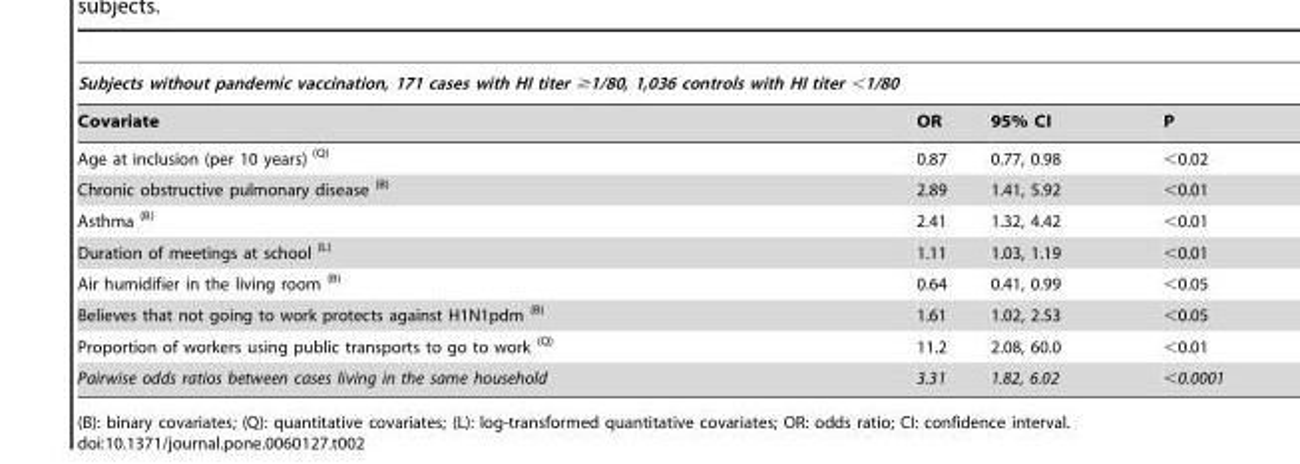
<table><thead><tr><td colspan="4">Subjects without pandemic vaccination, 171 cases with HI titer ≥1/80, 1,036 controls with HI titer &lt;1/80</td></tr><tr><td>Covariate</td><td>OR</td><td>95% CI</td><td>P</td></tr></thead><tbody><tr><td>Age at inclusion (per 10 years) <sup>(Q)</sup></td><td>0.87</td><td>0.77, 0.98</td><td>&lt;0.02</td></tr><tr><td>Chronic obstructive pulmonary disease <sup>(B)</sup></td><td>2.89</td><td>1.41, 5.92</td><td>&lt;0.01</td></tr><tr><td>Asthma <sup>(B)</sup></td><td>2.41</td><td>1.32, 4.42</td><td>&lt;0.01</td></tr><tr><td>Duration of meetings at school <sup>(L)</sup></td><td>1.11</td><td>1.03, 1.19</td><td>&lt;0.01</td></tr><tr><td>Air humidifier in the living room <sup>(B)</sup></td><td>0.64</td><td>0.41, 0.99</td><td>&lt;0.05</td></tr><tr><td>Believes that not going to work protects against H1N1pdm <sup>(B)</sup></td><td>1.61</td><td>1.02, 2.53</td><td>&lt;0.05</td></tr><tr><td>Proportion of workers using public transports to go to work <sup>(Q)</sup></td><td>11.2</td><td>2.08, 60.0</td><td>&lt;0.01</td></tr><tr><td>Pairwise odds ratios between cases living in the same household</td><td>3.31</td><td>1.82, 6.02</td><td>&lt;0.0001</td></tr></tbody></table>